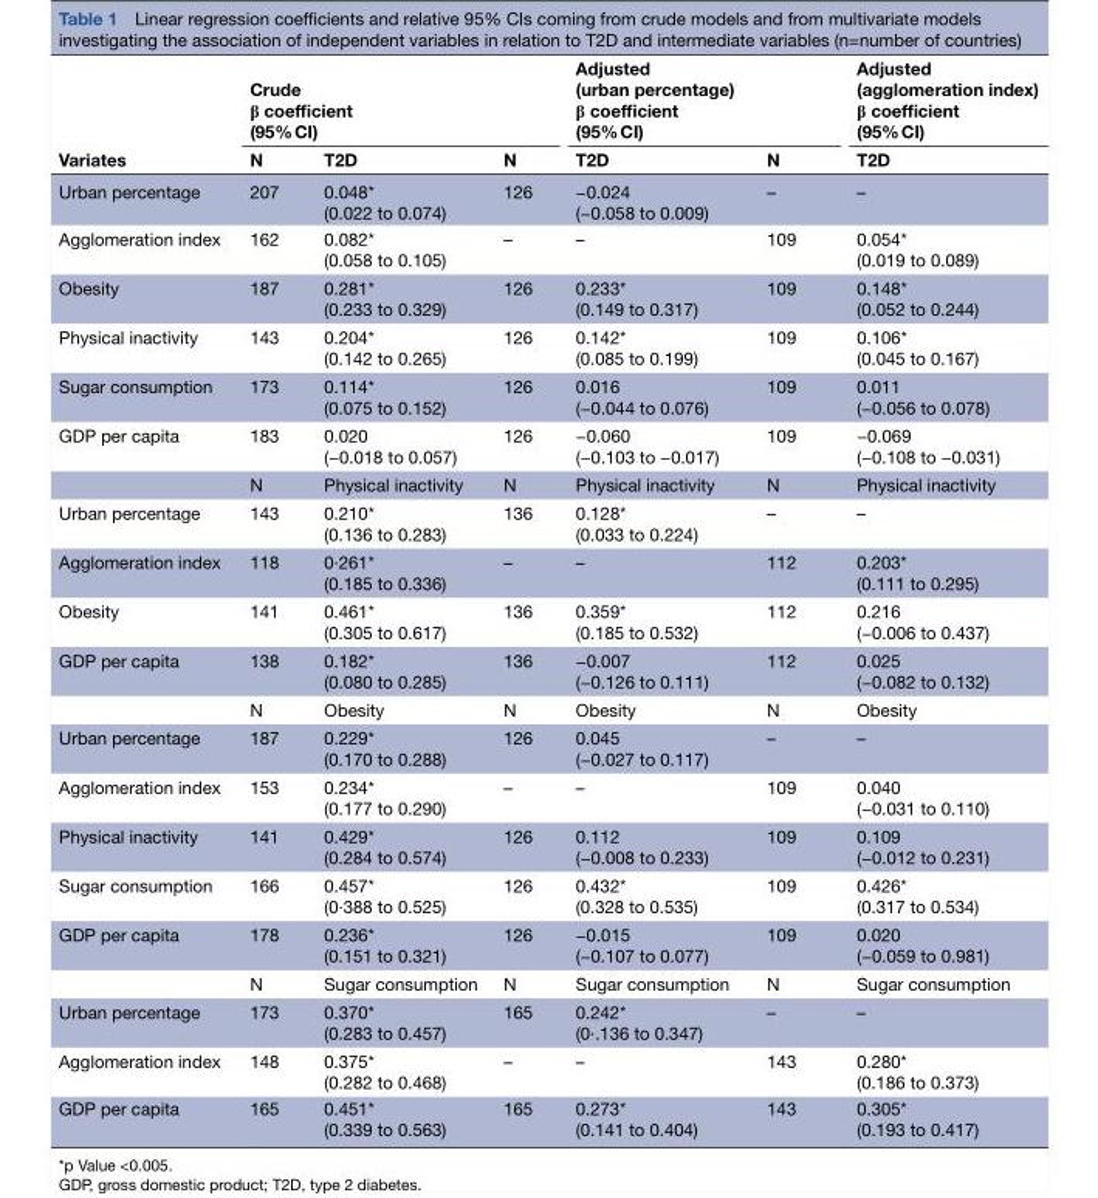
<table><thead><tr><td rowspan="2">Variates</td><td colspan="3">Crude β coefficient (95% CI)</td><td colspan="2">Adjusted (urban percentage) β coefficient (95% CI)</td><td rowspan="2">Adjusted (agglomeration index) β coefficient (95% CI) T2D</td></tr><tr><td>N</td><td>T2D</td><td>N</td><td>T2D</td><td>N</td></tr></thead><tbody><tr><td>Urban percentage</td><td>207</td><td>0.048* (0.022 to 0.074)</td><td>126</td><td>−0.024 (−0.058 to 0.009)</td><td>–</td><td>–</td></tr><tr><td>Agglomeration index</td><td>162</td><td>0.082* (0.058 to 0.105)</td><td>–</td><td>–</td><td>109</td><td>0.054* (0.019 to 0.089)</td></tr><tr><td>Obesity</td><td>187</td><td>0.281* (0.233 to 0.329)</td><td>126</td><td>0.233* (0.149 to 0.317)</td><td>109</td><td>0.148* (0.052 to 0.244)</td></tr><tr><td>Physical inactivity</td><td>143</td><td>0.204* (0.142 to 0.265)</td><td>126</td><td>0.142* (0.085 to 0.199)</td><td>109</td><td>0.106* (0.045 to 0.167)</td></tr><tr><td>Sugar consumption</td><td>173</td><td>0.114* (0.075 to 0.152)</td><td>126</td><td>0.016 (−0.044 to 0.076)</td><td>109</td><td>0.011 (−0.056 to 0.078)</td></tr><tr><td rowspan="2">GDP per capita</td><td>183</td><td>0.020 (−0.018 to 0.057)</td><td>126</td><td>−0.060 (−0.103 to −0.017)</td><td>109</td><td>−0.069 (−0.108 to −0.031)</td></tr><tr><td>N</td><td>Physical inactivity</td><td>N</td><td>Physical inactivity</td><td>N</td><td>Physical inactivity</td></tr><tr><td>Urban percentage</td><td>143</td><td>0.210* (0.136 to 0.283)</td><td>136</td><td>0.128* (0.033 to 0.224)</td><td>–</td><td>–</td></tr><tr><td>Agglomeration index</td><td>118</td><td>0·261* (0.185 to 0.336)</td><td>–</td><td>–</td><td>112</td><td>0.203* (0.111 to 0.295)</td></tr><tr><td>Obesity</td><td>141</td><td>0.461* (0.305 to 0.617)</td><td>136</td><td>0.359* (0.185 to 0.532)</td><td>112</td><td>0.216 (−0.006 to 0.437)</td></tr><tr><td rowspan="2">GDP per capita</td><td>138</td><td>0.182* (0.080 to 0.285)</td><td>136</td><td>−0.007 (−0.126 to 0.111)</td><td>112</td><td>0.025 (−0.082 to 0.132)</td></tr><tr><td>N</td><td>Obesity</td><td>N</td><td>Obesity</td><td>N</td><td>Obesity</td></tr><tr><td>Urban percentage</td><td>187</td><td>0.229* (0.170 to 0.288)</td><td>126</td><td>0.045 (−0.027 to 0.117)</td><td>–</td><td>–</td></tr><tr><td>Agglomeration index</td><td>153</td><td>0.234* (0.177 to 0.290)</td><td>–</td><td>–</td><td>109</td><td>0.040 (−0.031 to 0.110)</td></tr><tr><td>Physical inactivity</td><td>141</td><td>0.429* (0.284 to 0.574)</td><td>126</td><td>0.112 (−0.008 to 0.233)</td><td>109</td><td>0.109 (−0.012 to 0.231)</td></tr><tr><td>Sugar consumption</td><td>166</td><td>0.457* (0·388 to 0.525)</td><td>126</td><td>0.432* (0.328 to 0.535)</td><td>109</td><td>0.426* (0.317 to 0.534)</td></tr><tr><td rowspan="2">GDP per capita</td><td>178</td><td>0.236* (0.151 to 0.321)</td><td>126</td><td>−0.015 (−0.107 to 0.077)</td><td>109</td><td>0.020 (−0.059 to 0.981)</td></tr><tr><td>N</td><td>Sugar consumption</td><td>N</td><td>Sugar consumption</td><td>N</td><td>Sugar consumption</td></tr><tr><td>Urban percentage</td><td>173</td><td>0.370* (0.283 to 0.457)</td><td>165</td><td>0.242* (0·.136 to 0.347)</td><td>–</td><td>–</td></tr><tr><td>Agglomeration index</td><td>148</td><td>0.375* (0.282 to 0.468)</td><td>–</td><td>–</td><td>143</td><td>0.280* (0.186 to 0.373)</td></tr><tr><td>GDP per capita</td><td>165</td><td>0.451* (0.339 to 0.563)</td><td>165</td><td>0.273* (0.141 to 0.404)</td><td>143</td><td>0.305* (0.193 to 0.417)</td></tr></tbody></table>